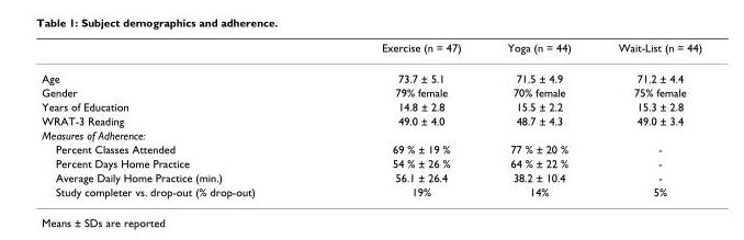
<table><thead><tr><td></td><td>Exercise (n = 47)</td><td>Yoga (n = 44)</td><td>Wait-List (n = 44)</td></tr></thead><tbody><tr><td>Age</td><td>73.7 ± 5.1</td><td>71.5 ± 4.9</td><td>71.2 ± 4.4</td></tr><tr><td>Gender</td><td>79% female</td><td>70% female</td><td>75% female</td></tr><tr><td>Years of Education</td><td>14.8 ± 2.8</td><td>15.5 ± 2.2</td><td>15.3 ± 2.8</td></tr><tr><td>WRAT-3 Reading</td><td>49.0 ± 4.0</td><td>48.7 ± 4.3</td><td>49.0 ± 3.4</td></tr><tr><td colspan="4">Measures of Adherence:</td></tr><tr><td>Percent Classes Attended</td><td>69 % ± 19 %</td><td>77 % ± 20 %</td><td>-</td></tr><tr><td>Percent Days Home Practice</td><td>54 % ± 26 %</td><td>64 % ± 22 %</td><td>-</td></tr><tr><td>Average Daily Home Practice (min.)</td><td>56.1 ± 26.4</td><td>38.2 ± 10.4</td><td>-</td></tr><tr><td>Study completer vs. drop-out (% drop-out)</td><td>19%</td><td>14%</td><td>5%</td></tr></tbody></table>